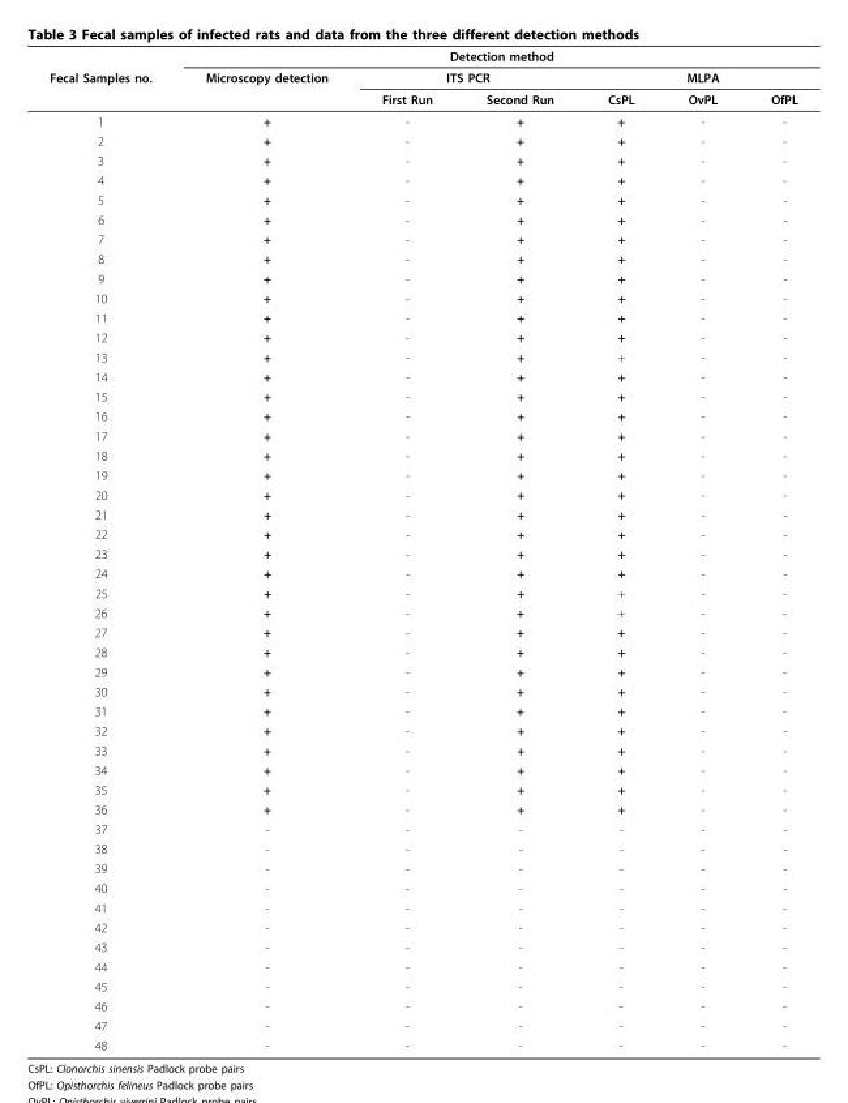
<table><thead><tr><td rowspan="3">Fecal Samples no.</td><td colspan="6">Detection method</td></tr><tr><td rowspan="2">Microscopy detection</td><td colspan="2">ITS PCR</td><td colspan="3">MLPA</td></tr><tr><td>First Run</td><td>Second Run</td><td>CsPL</td><td>OvPL</td><td>OfPL</td></tr></thead><tbody><tr><td>1</td><td>+</td><td>-</td><td>+</td><td>+</td><td>-</td><td>-</td></tr><tr><td>2</td><td>+</td><td>-</td><td>+</td><td>+</td><td>-</td><td>-</td></tr><tr><td>3</td><td>+</td><td>-</td><td>+</td><td>+</td><td>-</td><td>-</td></tr><tr><td>4</td><td>+</td><td>-</td><td>+</td><td>+</td><td>-</td><td>-</td></tr><tr><td>5</td><td>+</td><td>-</td><td>+</td><td>+</td><td>-</td><td>-</td></tr><tr><td>6</td><td>+</td><td>-</td><td>+</td><td>+</td><td>-</td><td>-</td></tr><tr><td>7</td><td>+</td><td>-</td><td>+</td><td>+</td><td>-</td><td>-</td></tr><tr><td>8</td><td>+</td><td>-</td><td>+</td><td>+</td><td>-</td><td>-</td></tr><tr><td>9</td><td>+</td><td>-</td><td>+</td><td>+</td><td>-</td><td>-</td></tr><tr><td>10</td><td>+</td><td>-</td><td>+</td><td>+</td><td>-</td><td>-</td></tr><tr><td>11</td><td>+</td><td>-</td><td>+</td><td>+</td><td>-</td><td>-</td></tr><tr><td>12</td><td>+</td><td>-</td><td>+</td><td>+</td><td>-</td><td>-</td></tr><tr><td>13</td><td>+</td><td>-</td><td>+</td><td>+</td><td>-</td><td>-</td></tr><tr><td>14</td><td>+</td><td>-</td><td>+</td><td>+</td><td>-</td><td>-</td></tr><tr><td>15</td><td>+</td><td>-</td><td>+</td><td>+</td><td>-</td><td>-</td></tr><tr><td>16</td><td>+</td><td>-</td><td>+</td><td>+</td><td>-</td><td>-</td></tr><tr><td>17</td><td>+</td><td>-</td><td>+</td><td>+</td><td>-</td><td>-</td></tr><tr><td>18</td><td>+</td><td>-</td><td>+</td><td>+</td><td>-</td><td>-</td></tr><tr><td>19</td><td>+</td><td>-</td><td>+</td><td>+</td><td>-</td><td>-</td></tr><tr><td>20</td><td>+</td><td>-</td><td>+</td><td>+</td><td>-</td><td>-</td></tr><tr><td>21</td><td>+</td><td>-</td><td>+</td><td>+</td><td>-</td><td>-</td></tr><tr><td>22</td><td>+</td><td>-</td><td>+</td><td>+</td><td>-</td><td>-</td></tr><tr><td>23</td><td>+</td><td>-</td><td>+</td><td>+</td><td>-</td><td>-</td></tr><tr><td>24</td><td>+</td><td>-</td><td>+</td><td>+</td><td>-</td><td>-</td></tr><tr><td>25</td><td>+</td><td>-</td><td>+</td><td>+</td><td>-</td><td>-</td></tr><tr><td>26</td><td>+</td><td>-</td><td>+</td><td>+</td><td>-</td><td>-</td></tr><tr><td>27</td><td>+</td><td>-</td><td>+</td><td>+</td><td>-</td><td>-</td></tr><tr><td>28</td><td>+</td><td>-</td><td>+</td><td>+</td><td>-</td><td>-</td></tr><tr><td>29</td><td>+</td><td>-</td><td>+</td><td>+</td><td>-</td><td>-</td></tr><tr><td>30</td><td>+</td><td>-</td><td>+</td><td>+</td><td>-</td><td>-</td></tr><tr><td>31</td><td>+</td><td>-</td><td>+</td><td>+</td><td>-</td><td>-</td></tr><tr><td>32</td><td>+</td><td>-</td><td>+</td><td>+</td><td>-</td><td>-</td></tr><tr><td>33</td><td>+</td><td>-</td><td>+</td><td>+</td><td>-</td><td>-</td></tr><tr><td>34</td><td>+</td><td>-</td><td>+</td><td>+</td><td>-</td><td>-</td></tr><tr><td>35</td><td>+</td><td>-</td><td>+</td><td>+</td><td>-</td><td>-</td></tr><tr><td>36</td><td>+</td><td>-</td><td>+</td><td>+</td><td>-</td><td>-</td></tr><tr><td>37</td><td>-</td><td>-</td><td>-</td><td>-</td><td>-</td><td>-</td></tr><tr><td>38</td><td>-</td><td>-</td><td>-</td><td>-</td><td>-</td><td>-</td></tr><tr><td>39</td><td>-</td><td>-</td><td>-</td><td>-</td><td>-</td><td>-</td></tr><tr><td>40</td><td>-</td><td>-</td><td>-</td><td>-</td><td>-</td><td>-</td></tr><tr><td>41</td><td>-</td><td>-</td><td>-</td><td>-</td><td>-</td><td>-</td></tr><tr><td>42</td><td>-</td><td>-</td><td>-</td><td>-</td><td>-</td><td>-</td></tr><tr><td>43</td><td>-</td><td>-</td><td>-</td><td>-</td><td>-</td><td>-</td></tr><tr><td>44</td><td>-</td><td>-</td><td>-</td><td>-</td><td>-</td><td>-</td></tr><tr><td>45</td><td>-</td><td>-</td><td>-</td><td>-</td><td>-</td><td>-</td></tr><tr><td>46</td><td>-</td><td>-</td><td>-</td><td>-</td><td>-</td><td>-</td></tr><tr><td>47</td><td>-</td><td>-</td><td>-</td><td>-</td><td>-</td><td>-</td></tr><tr><td>48</td><td>-</td><td>-</td><td>-</td><td>-</td><td>-</td><td>-</td></tr></tbody></table>